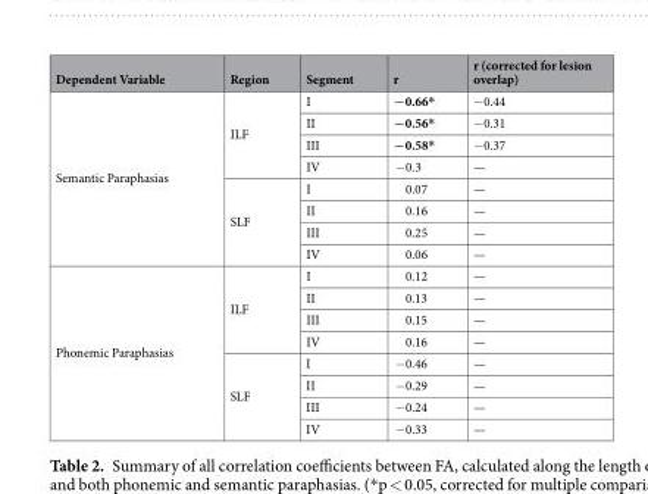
<table><thead><tr><td>Dependent Variable</td><td>Region</td><td>Segment</td><td>r</td><td>r (corrected for lesion overlap)</td></tr></thead><tbody><tr><td rowspan="8">Semantic Paraphasias</td><td rowspan="4">ILF</td><td>I</td><td>−0.66*</td><td>−0.44</td></tr><tr><td>II</td><td>−0.56*</td><td>−0.31</td></tr><tr><td>III</td><td>−0.58*</td><td>−0.37</td></tr><tr><td>IV</td><td>−0.3</td><td>—</td></tr><tr><td rowspan="4">SLF</td><td>I</td><td>0.07</td><td>—</td></tr><tr><td>II</td><td>0.16</td><td>—</td></tr><tr><td>III</td><td>0.25</td><td>—</td></tr><tr><td>IV</td><td>0.06</td><td>—</td></tr><tr><td rowspan="8">Phonemic Paraphasias</td><td rowspan="4">ILF</td><td>I</td><td>0.12</td><td>—</td></tr><tr><td>II</td><td>0.13</td><td>—</td></tr><tr><td>III</td><td>0.15</td><td>—</td></tr><tr><td>IV</td><td>0.16</td><td>—</td></tr><tr><td rowspan="4">SLF</td><td>I</td><td>−0.46</td><td>—</td></tr><tr><td>II</td><td>−0.29</td><td>—</td></tr><tr><td>III</td><td>−0.24</td><td>—</td></tr><tr><td>IV</td><td>−0.33</td><td>—</td></tr></tbody></table>